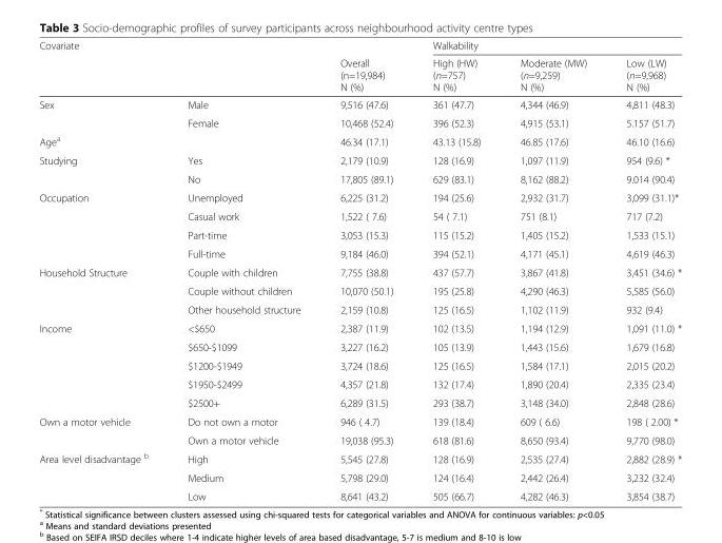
<table><thead><tr><td rowspan="2">Covariate</td><td rowspan="2"></td><td rowspan="2">Overall (n=19,984) N (%)</td><td colspan="3">Walkability</td></tr><tr><td>High (HW) (n=757) N (%)</td><td>Moderate (MW) (n=9,259) N (%)</td><td>Low (LW) (n=9,968) N (%)</td></tr></thead><tbody><tr><td rowspan="2">Sex</td><td>Male</td><td>9,516 (47.6)</td><td>361 (47.7)</td><td>4,344 (46.9)</td><td>4,811 (48.3)</td></tr><tr><td>Female</td><td>10,468 (52.4)</td><td>396 (52.3)</td><td>4,915 (53.1)</td><td>5.157 (51.7)</td></tr><tr><td>Age<sup>a</sup></td><td></td><td>46.34 (17.1)</td><td>43.13 (15.8)</td><td>46.85 (17.6)</td><td>46.10 (16.6)</td></tr><tr><td rowspan="2">Studying</td><td>Yes</td><td>2,179 (10.9)</td><td>128 (16.9)</td><td>1,097 (11.9)</td><td>954 (9.6) *</td></tr><tr><td>No</td><td>17,805 (89.1)</td><td>629 (83.1)</td><td>8,162 (88.2)</td><td>9.014 (90.4)</td></tr><tr><td rowspan="4">Occupation</td><td>Unemployed</td><td>6,225 (31.2)</td><td>194 (25.6)</td><td>2,932 (31.7)</td><td>3,099 (31.1)*</td></tr><tr><td>Casual work</td><td>1,522 ( 7.6)</td><td>54 ( 7.1)</td><td>751 (8.1)</td><td>717 (7.2)</td></tr><tr><td>Part-time</td><td>3,053 (15.3)</td><td>115 (15.2)</td><td>1,405 (15.2)</td><td>1,533 (15.1)</td></tr><tr><td>Full-time</td><td>9,184 (46.0)</td><td>394 (52.1)</td><td>4,171 (45.1)</td><td>4,619 (46.3)</td></tr><tr><td rowspan="3">Household Structure</td><td>Couple with children</td><td>7,755 (38.8)</td><td>437 (57.7)</td><td>3,867 (41.8)</td><td>3,451 (34.6) *</td></tr><tr><td>Couple without children</td><td>10,070 (50.1)</td><td>195 (25.8)</td><td>4,290 (46.3)</td><td>5,585 (56.0)</td></tr><tr><td>Other household structure</td><td>2,159 (10.8)</td><td>125 (16.5)</td><td>1,102 (11.9)</td><td>932 (9.4)</td></tr><tr><td rowspan="5">Income</td><td>&lt;$650</td><td>2,387 (11.9)</td><td>102 (13.5)</td><td>1,194 (12.9)</td><td>1,091 (11.0) *</td></tr><tr><td>$650-$1099</td><td>3,227 (16.2)</td><td>105 (13.9)</td><td>1,443 (15.6)</td><td>1,679 (16.8)</td></tr><tr><td>$1200-$1949</td><td>3,724 (18.6)</td><td>125 (16.5)</td><td>1,584 (17.1)</td><td>2,015 (20.2)</td></tr><tr><td>$1950-$2499</td><td>4,357 (21.8)</td><td>132 (17.4)</td><td>1,890 (20.4)</td><td>2,335 (23.4)</td></tr><tr><td>$2500+</td><td>6,289 (31.5)</td><td>293 (38.7)</td><td>3,148 (34.0)</td><td>2,848 (28.6)</td></tr><tr><td rowspan="2">Own a motor vehicle</td><td>Do not own a motor</td><td>946 ( 4.7)</td><td>139 (18.4)</td><td>609 ( 6.6)</td><td>198 ( 2.00) *</td></tr><tr><td>Own a motor vehicle</td><td>19,038 (95.3)</td><td>618 (81.6)</td><td>8,650 (93.4)</td><td>9,770 (98.0)</td></tr><tr><td rowspan="3">Area level disadvantage <sup>b</sup></td><td>High</td><td>5,545 (27.8)</td><td>128 (16.9)</td><td>2,535 (27.4)</td><td>2,882 (28.9) *</td></tr><tr><td>Medium</td><td>5,798 (29.0)</td><td>124 (16.4)</td><td>2,442 (26.4)</td><td>3,232 (32.4)</td></tr><tr><td>Low</td><td>8,641 (43.2)</td><td>505 (66.7)</td><td>4,282 (46.3)</td><td>3,854 (38.7)</td></tr></tbody></table>